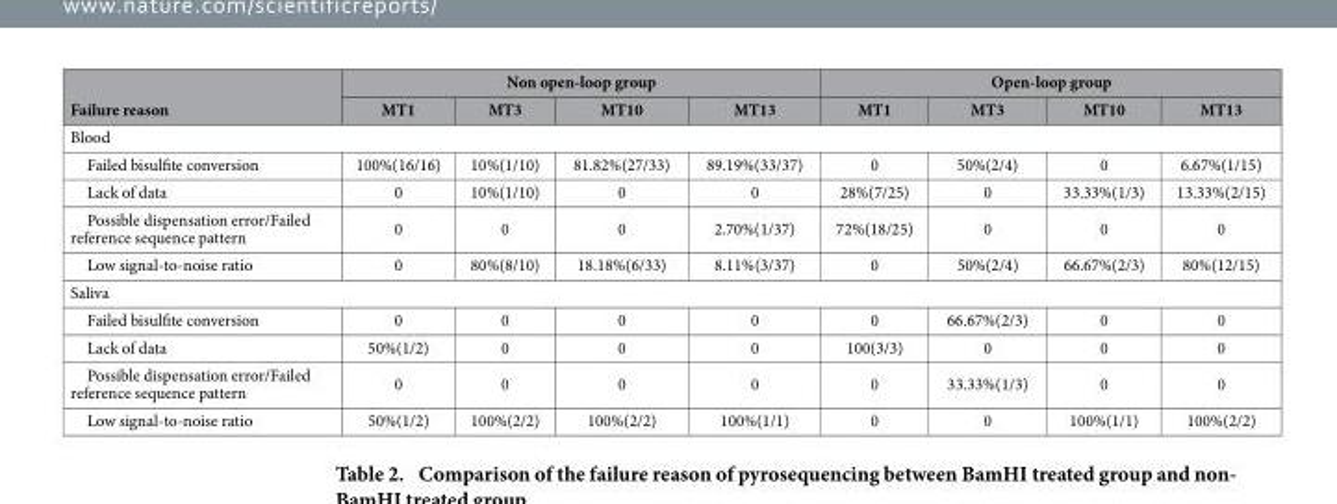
<table><thead><tr><td rowspan="2">Failure reason</td><td colspan="4">Non open-loop group</td><td colspan="4">Open-loop group</td></tr><tr><td>MT1</td><td>MT3</td><td>MT10</td><td>MT13</td><td>MT1</td><td>MT3</td><td>MT10</td><td>MT13</td></tr></thead><tbody><tr><td colspan="9">Blood</td></tr><tr><td>Failed bisulfite conversion</td><td>100%(16/16)</td><td>10%(1/10)</td><td>81.82%(27/33)</td><td>89.19%(33/37)</td><td>0</td><td>50%(2/4)</td><td>0</td><td>6.67%(1/15)</td></tr><tr><td>Lack of data</td><td>0</td><td>10%(1/10)</td><td>0</td><td>0</td><td>28%(7/25)</td><td>0</td><td>33.33%(1/3)</td><td>13.33%(2/15)</td></tr><tr><td>Possible dispensation error/Failed reference sequence pattern</td><td>0</td><td>0</td><td>0</td><td>2.70%(1/37)</td><td>72%(18/25)</td><td>0</td><td>0</td><td>0</td></tr><tr><td>Low signal-to-noise ratio</td><td>0</td><td>80%(8/10)</td><td>18.18%(6/33)</td><td>8.11%(3/37)</td><td>0</td><td>50%(2/4)</td><td>66.67%(2/3)</td><td>80%(12/15)</td></tr><tr><td colspan="9">Saliva</td></tr><tr><td>Failed bisulfite conversion</td><td>0</td><td>0</td><td>0</td><td>0</td><td>0</td><td>66.67%(2/3)</td><td>0</td><td>0</td></tr><tr><td>Lack of data</td><td>50%(1/2)</td><td>0</td><td>0</td><td>0</td><td>100(3/3)</td><td>0</td><td>0</td><td>0</td></tr><tr><td>Possible dispensation error/Failed reference sequence pattern</td><td>0</td><td>0</td><td>0</td><td>0</td><td>0</td><td>33.33%(1/3)</td><td>0</td><td>0</td></tr><tr><td>Low signal-to-noise ratio</td><td>50%(1/2)</td><td>100%(2/2)</td><td>100%(2/2)</td><td>100%(1/1)</td><td>0</td><td>0</td><td>100%(1/1)</td><td>100%(2/2)</td></tr></tbody></table>